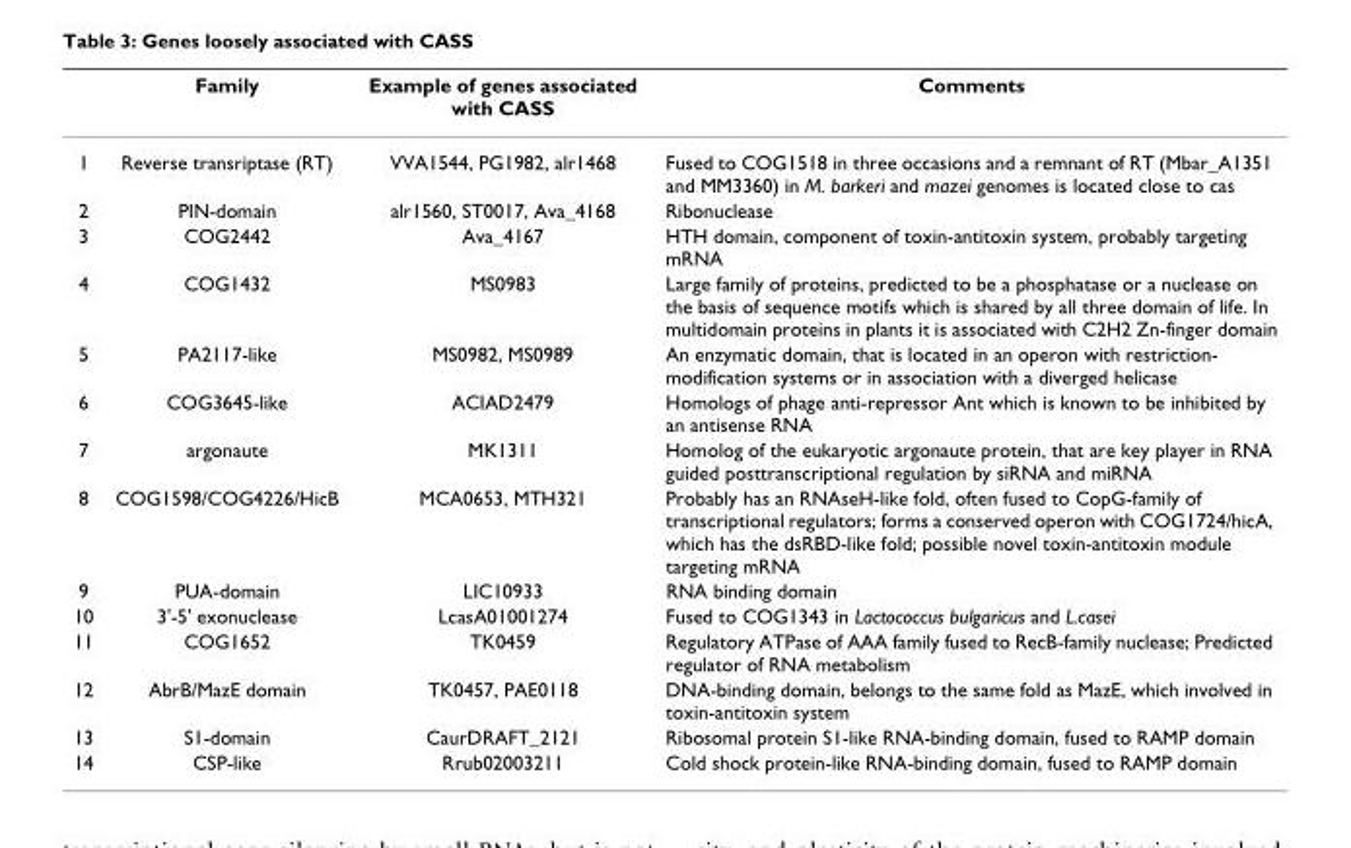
<table><thead><tr><td></td><td>Family</td><td>Example of genes associated with CASS</td><td>Comments</td></tr></thead><tbody><tr><td>1</td><td>Reverse transriptase (RT)</td><td>VVA1544, PG1982, alr1468</td><td>Fused to COG1518 in three occasions and a remnant of RT (Mbar_A1351 and MM3360) in M. barkeri and mazei genomes is located close to cas</td></tr><tr><td>2</td><td>PIN-domain</td><td>alr1560, ST0017, Ava_4168</td><td>Ribonuclease</td></tr><tr><td>3</td><td>COG2442</td><td>Ava_4167</td><td>HTH domain, component of toxin-antitoxin system, probably targeting mRNA</td></tr><tr><td>4</td><td>COG1432</td><td>MS0983</td><td>Large family of proteins, predicted to be a phosphatase or a nuclease on the basis of sequence motifs which is shared by all three domain of life. In multidomain proteins in plants it is associated with C2H2 Zn-finger domain</td></tr><tr><td>5</td><td>PA2117-like</td><td>MS0982, MS0989</td><td>An enzymatic domain, that is located in an operon with restriction- modification systems or in association with a diverged helicase</td></tr><tr><td>6</td><td>COG3645-like</td><td>ACIAD2479</td><td>Homologs of phage anti-repressor Ant which is known to be inhibited by an antisense RNA</td></tr><tr><td>7</td><td>argonaute</td><td>MK1311</td><td>Homolog of the eukaryotic argonaute protein, that are key player in RNA guided posttranscriptional regulation by siRNA and miRNA</td></tr><tr><td>8</td><td>COG1598/COG4226/HicB</td><td>MCA0653, MTH321</td><td>Probably has an RNAseH-like fold, often fused to CopG-family of transcriptional regulators; forms a conserved operon with COG1724/hicA, which has the dsRBD-like fold; possible novel toxin-antitoxin module targeting mRNA</td></tr><tr><td>9</td><td>PUA-domain</td><td>LIC10933</td><td>RNA binding domain</td></tr><tr><td>10</td><td>3&#x27;-5&#x27; exonuclease</td><td>LcasA01001274</td><td>Fused to COG1343 in Lactococcus bulgaricus and L.casei</td></tr><tr><td>11</td><td>COG1652</td><td>TK0459</td><td>Regulatory ATPase of AAA family fused to RecB-family nuclease; Predicted regulator of RNA metabolism</td></tr><tr><td>12</td><td>AbrB/MazE domain</td><td>TK0457, PAE0118</td><td>DNA-binding domain, belongs to the same fold as MazE, which involved in toxin-antitoxin system</td></tr><tr><td>13</td><td>S1-domain</td><td>CaurDRAFT_2121</td><td>Ribosomal protein S1-like RNA-binding domain, fused to RAMP domain</td></tr><tr><td>14</td><td>CSP-like</td><td>Rrub02003211</td><td>Cold shock protein-like RNA-binding domain, fused to RAMP domain</td></tr></tbody></table>